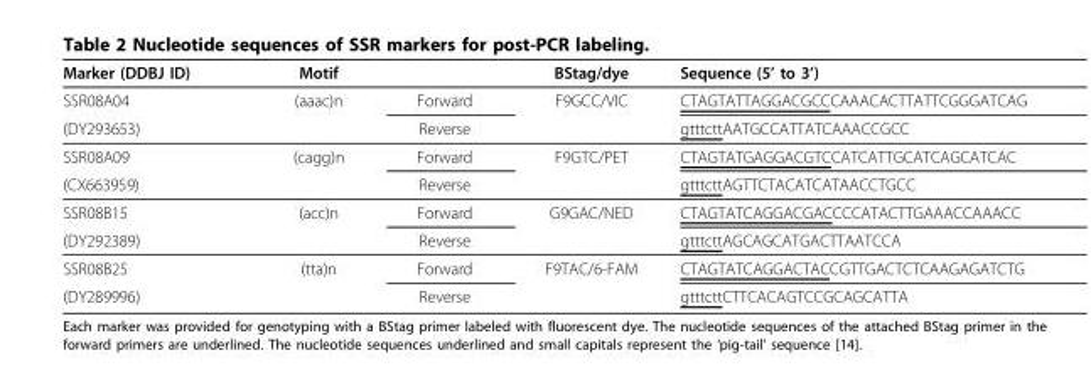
<table><thead><tr><td>Marker (DDBJ ID)</td><td>Motif</td><td></td><td>BStag/dye</td><td>Sequence (5’ to 3’)</td></tr></thead><tbody><tr><td>SSR08A04</td><td>(aaac)n</td><td>Forward</td><td>F9GCC/VIC</td><td>CTAGTATTAGGACGCCCAAACACTTATTCGGGATCAG</td></tr><tr><td>(DY293653)</td><td></td><td>Reverse</td><td></td><td>gtttcttAATGCCATTATCAAACCGCC</td></tr><tr><td>SSR08A09</td><td>(cagg)n</td><td>Forward</td><td>F9GTC/PET</td><td>CTAGTATGAGGACGTCCATCATTGCATCAGCATCAC</td></tr><tr><td>(CX663959)</td><td></td><td>Reverse</td><td></td><td>gtttcttAGTTCTACATCATAACCTGCC</td></tr><tr><td>SSR08B15</td><td>(acc)n</td><td>Forward</td><td>G9GAC/NED</td><td>CTAGTATCAGGACGACCCCATACTTGAAACCAAACC</td></tr><tr><td>(DY292389)</td><td></td><td>Reverse</td><td></td><td>gtttcttAGCAGCATGACTTAATCCA</td></tr><tr><td>SSR08B25</td><td>(tta)n</td><td>Forward</td><td>F9TAC/6-FAM</td><td>CTAGTATCAGGACTACCGTTGACTCTCAAGAGATCTG</td></tr><tr><td>(DY289996)</td><td></td><td>Reverse</td><td></td><td>gtttcttCTTCACAGTCCGCAGCATTA</td></tr></tbody></table>